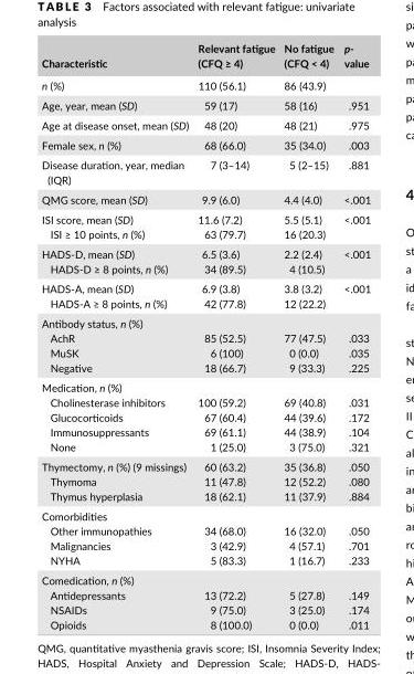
<table><thead><tr><td>Characteristic</td><td>Relevant fatigue (CFQ ≥ 4)</td><td>No fatigue (CFQ &lt; 4)</td><td>p- value</td></tr></thead><tbody><tr><td>n (%)</td><td>110 (56.1)</td><td>86 (43.9)</td><td></td></tr><tr><td>Age, year, mean (SD)</td><td>59 (17)</td><td>58 (16)</td><td>.951</td></tr><tr><td>Age at disease onset, mean (SD)</td><td>48 (20)</td><td>48 (21)</td><td>.975</td></tr><tr><td>Female sex, n (%)</td><td>68 (66.0)</td><td>35 (34.0)</td><td>.003</td></tr><tr><td>Disease duration, year, median (IQR)</td><td>7 (3–14)</td><td>5 (2–15)</td><td>.881</td></tr><tr><td>QMG score, mean (SD)</td><td>9.9 (6.0)</td><td>4.4 (4.0)</td><td>&lt;.001</td></tr><tr><td>ISI score, mean (SD)</td><td>11.6 (7.2)</td><td>5.5 (5.1)</td><td>&lt;.001</td></tr><tr><td>ISI ≥ 10 points, n (%)</td><td>63 (79.7)</td><td>16 (20.3)</td><td></td></tr><tr><td>HADS- D, mean (SD)</td><td>6.5 (3.6)</td><td>2.2 (2.4)</td><td>&lt;.001</td></tr><tr><td>HADS- D ≥ 8 points, n (%)</td><td>34 (89.5)</td><td>4 (10.5)</td><td></td></tr><tr><td>HADS- A, mean (SD)</td><td>6.9 (3.8)</td><td>3.8 (3.2)</td><td>&lt;.001</td></tr><tr><td>HADS- A ≥ 8 points, n (%)</td><td>42 (77.8)</td><td>12 (22.2)</td><td></td></tr><tr><td colspan="4">Antibody status, n (%)</td></tr><tr><td>AchR</td><td>85 (52.5)</td><td>77 (47.5)</td><td>.033</td></tr><tr><td>MuSK</td><td>6 (100)</td><td>0 (0.0)</td><td>.035</td></tr><tr><td>Negative</td><td>18 (66.7)</td><td>9 (33.3)</td><td>.225</td></tr><tr><td colspan="4">Medication, n (%)</td></tr><tr><td>Cholinesterase inhibitors</td><td>100 (59.2)</td><td>69 (40.8)</td><td>.031</td></tr><tr><td>Glucocorticoids</td><td>67 (60.4)</td><td>44 (39.6)</td><td>.172</td></tr><tr><td>Immunosuppressants</td><td>69 (61.1)</td><td>44 (38.9)</td><td>.104</td></tr><tr><td>None</td><td>1 (25.0)</td><td>3 (75.0)</td><td>.321</td></tr><tr><td>Thymectomy, n (%) (9 missings)</td><td>60 (63.2)</td><td>35 (36.8)</td><td>.050</td></tr><tr><td>Thymoma</td><td>11 (47.8)</td><td>12 (52.2)</td><td>.080</td></tr><tr><td>Thymus hyperplasia</td><td>18 (62.1)</td><td>11 (37.9)</td><td>.884</td></tr><tr><td colspan="4">Comorbidities</td></tr><tr><td>Other immunopathies</td><td>34 (68.0)</td><td>16 (32.0)</td><td>.050</td></tr><tr><td>Malignancies</td><td>3 (42.9)</td><td>4 (57.1)</td><td>.701</td></tr><tr><td>NYHA</td><td>5 (83.3)</td><td>1 (16.7)</td><td>.233</td></tr><tr><td colspan="4">Comedication, n (%)</td></tr><tr><td>Antidepressants</td><td>13 (72.2)</td><td>5 (27.8)</td><td>.149</td></tr><tr><td>NSAIDs</td><td>9 (75.0)</td><td>3 (25.0)</td><td>.174</td></tr><tr><td>Opioids</td><td>8 (100.0)</td><td>0 (0.0)</td><td>.011</td></tr></tbody></table>